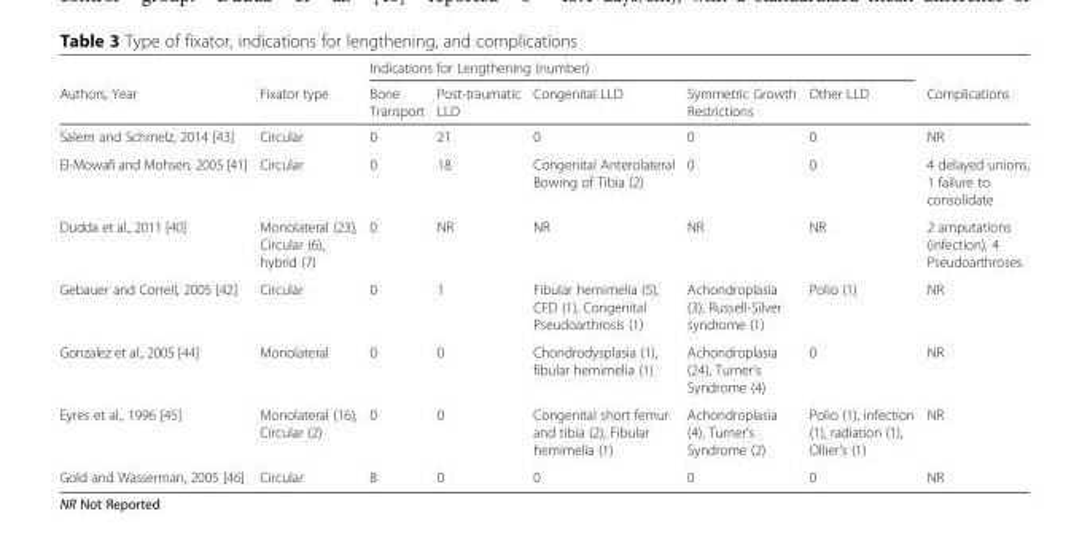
<table><thead><tr><td rowspan="2">Authors, Year</td><td rowspan="2">Fixator type</td><td colspan="5">Indications for Lengthening (number)</td><td rowspan="2">Complications</td></tr><tr><td>Bone Transport</td><td>Post-traumatic LLD</td><td>Congenital LLD</td><td>Symmetric Growth Restrictions</td><td>Other LLD</td></tr></thead><tbody><tr><td>Salem and Schmelz, 2014 [43]</td><td>Circular</td><td>0</td><td>21</td><td>0</td><td>0</td><td>0</td><td>NR</td></tr><tr><td>El-Mowafi and Mohsen, 2005 [41]</td><td>Circular</td><td>0</td><td>18</td><td>Congenital Anterolateral Bowing of Tibia (2)</td><td>0</td><td>0</td><td>4 delayed unions, 1 failure to consolidate</td></tr><tr><td>Dudda et al., 2011 [40]</td><td>Monolateral (23), Circular (6), hybrid (7)</td><td>0</td><td>NR</td><td>NR</td><td>NR</td><td>NR</td><td>2 amputations (infection), 4 Pseudoarthroses</td></tr><tr><td>Gebauer and Correll, 2005 [42]</td><td>Circular</td><td>0</td><td>1</td><td>Fibular hemimelia (5), CFD (1), Congenital Pseudoarthrosis (1)</td><td>Achondroplasia (3), Russell-Silver syndrome (1)</td><td>Polio (1)</td><td>NR</td></tr><tr><td>Gonzalez et al., 2005 [44]</td><td>Monolateral</td><td>0</td><td>0</td><td>Chondrodysplasia (1), fibular hemimelia (1)</td><td>Achondroplasia (24), Turner&#x27;s Syndrome (4)</td><td>0</td><td>NR</td></tr><tr><td>Eyres et al., 1996 [45]</td><td>Monolateral (16), Circular (2)</td><td>0</td><td>0</td><td>Congenital short femur and tibia (2), Fibular hemimelia (1)</td><td>Achondroplasia (4), Turner&#x27;s Syndrome (2)</td><td>Polio (1), infection (1), radiation (1), Ollier&#x27;s (1)</td><td>NR</td></tr><tr><td>Gold and Wasserman, 2005 [46]</td><td>Circular</td><td>8</td><td>0</td><td>0</td><td>0</td><td>0</td><td>NR</td></tr></tbody></table>